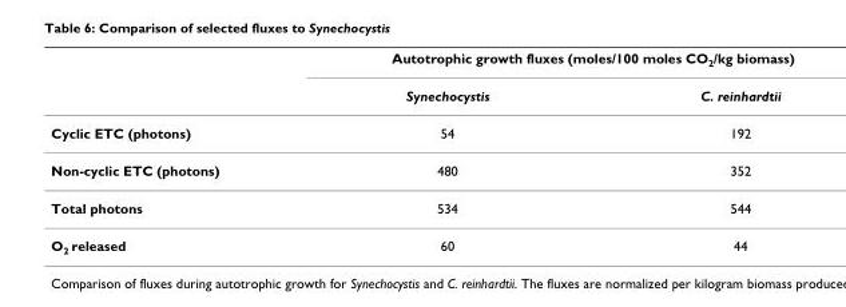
<table><thead><tr><td rowspan="2"></td><td colspan="2">Autotrophic growth fluxes (moles/100 moles CO<sub>2</sub>/kg biomass)</td></tr><tr><td>Synechocystis</td><td>C. reinhardtii</td></tr></thead><tbody><tr><td>Cyclic ETC (photons)</td><td>54</td><td>192</td></tr><tr><td>Non-cyclic ETC (photons)</td><td>480</td><td>352</td></tr><tr><td>Total photons</td><td>534</td><td>544</td></tr><tr><td>O<sub>2</sub> released</td><td>60</td><td>44</td></tr></tbody></table>